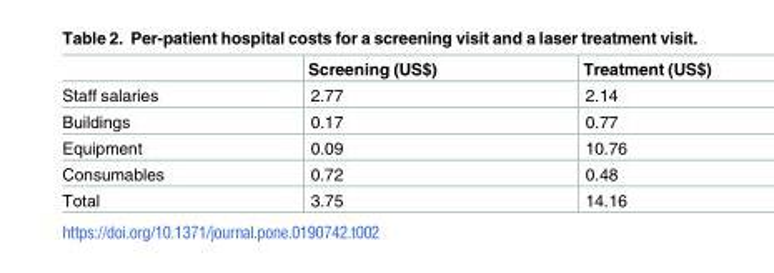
<table><thead><tr><td></td><td>Screening (US$)</td><td>Treatment (US$)</td></tr></thead><tbody><tr><td>Staff salaries</td><td>2.77</td><td>2.14</td></tr><tr><td>Buildings</td><td>0.17</td><td>0.77</td></tr><tr><td>Equipment</td><td>0.09</td><td>10.76</td></tr><tr><td>Consumables</td><td>0.72</td><td>0.48</td></tr><tr><td>Total</td><td>3.75</td><td>14.16</td></tr></tbody></table>